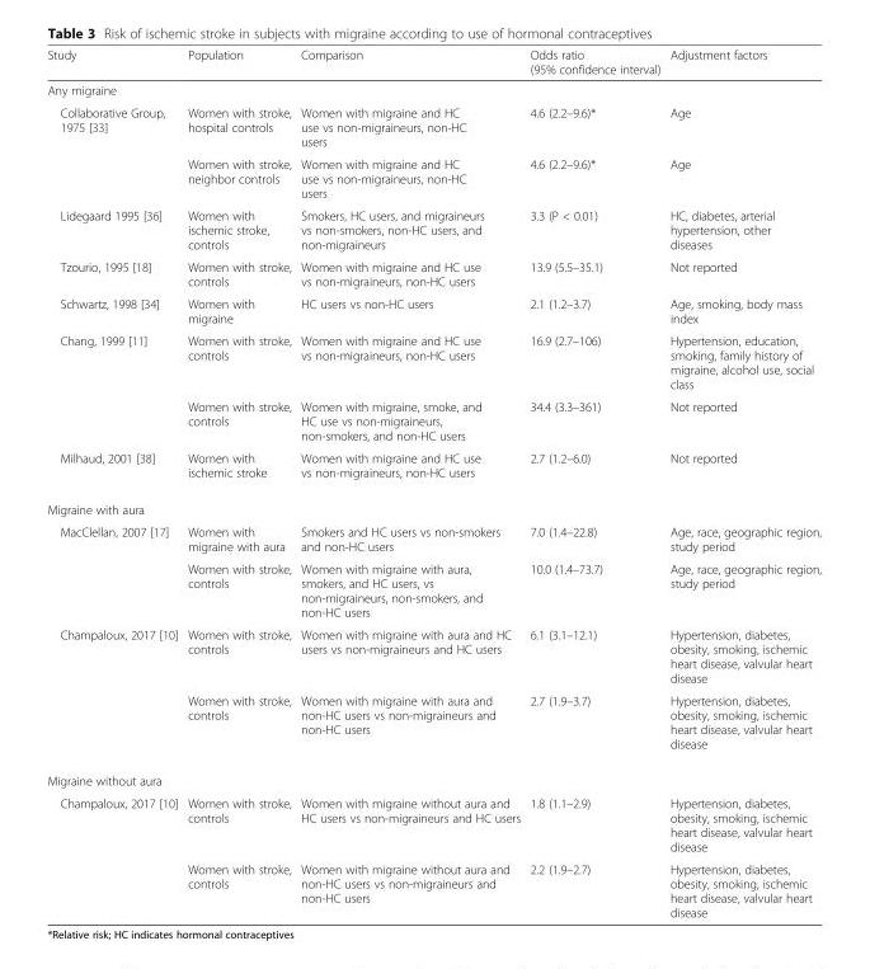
<table><thead><tr><td>Study</td><td>Population</td><td>Comparison</td><td>Odds ratio (95% confidence interval)</td><td>Adjustment factors</td></tr></thead><tbody><tr><td colspan="5">Any migraine</td></tr><tr><td rowspan="2">Collaborative Group, 1975 [33]</td><td>Women with stroke, hospital controls</td><td>Women with migraine and HC use vs non-migraineurs, non-HC users</td><td>4.6 (2.2–9.6)*</td><td>Age</td></tr><tr><td>Women with stroke, neighbor controls</td><td>Women with migraine and HC use vs non-migraineurs, non-HC users</td><td>4.6 (2.2–9.6)*</td><td>Age</td></tr><tr><td>Lidegaard 1995 [36]</td><td>Women with ischemic stroke, controls</td><td>Smokers, HC users, and migraineurs vs non-smokers, non-HC users, and non-migraineurs</td><td>3.3 (P &lt; 0.01)</td><td>HC, diabetes, arterial hypertension, other diseases</td></tr><tr><td>Tzourio, 1995 [18]</td><td>Women with stroke, controls</td><td>Women with migraine and HC use vs non-migraineurs, non-HC users</td><td>13.9 (5.5–35.1)</td><td>Not reported</td></tr><tr><td>Schwartz, 1998 [34]</td><td>Women with migraine</td><td>HC users vs non-HC users</td><td>2.1 (1.2–3.7)</td><td>Age, smoking, body mass index</td></tr><tr><td rowspan="2">Chang, 1999 [11]</td><td>Women with stroke, controls</td><td>Women with migraine and HC use vs non-migraineurs, non-HC users</td><td>16.9 (2.7–106)</td><td>Hypertension, education, smoking, family history of migraine, alcohol use, social class</td></tr><tr><td>Women with stroke, controls</td><td>Women with migraine, smoke, and HC use vs non-migraineurs, non-smokers, and non-HC users</td><td>34.4 (3.3–361)</td><td>Not reported</td></tr><tr><td>Milhaud, 2001 [38]</td><td>Women with ischemic stroke</td><td>Women with migraine and HC use vs non-migraineurs, non-HC users</td><td>2.7 (1.2–6.0)</td><td>Not reported</td></tr><tr><td colspan="5">Migraine with aura</td></tr><tr><td rowspan="2">MacClellan, 2007 [17]</td><td>Women with migraine with aura</td><td>Smokers and HC users vs non-smokers and non-HC users</td><td>7.0 (1.4–22.8)</td><td>Age, race, geographic region, study period</td></tr><tr><td>Women with stroke, controls</td><td>Women with migraine with aura, smokers, and HC users, vs non-migraineurs, non-smokers, and non-HC users</td><td>10.0 (1.4–73.7)</td><td>Age, race, geographic region, study period</td></tr><tr><td rowspan="2">Champaloux, 2017 [10]</td><td>Women with stroke, controls</td><td>Women with migraine with aura and HC users vs non-migraineurs and HC users</td><td>6.1 (3.1–12.1)</td><td>Hypertension, diabetes, obesity, smoking, ischemic heart disease, valvular heart disease</td></tr><tr><td>Women with stroke, controls</td><td>Women with migraine with aura and non-HC users vs non-migraineurs and non-HC users</td><td>2.7 (1.9–3.7)</td><td>Hypertension, diabetes, obesity, smoking, ischemic heart disease, valvular heart disease</td></tr><tr><td colspan="5">Migraine without aura</td></tr><tr><td rowspan="2">Champaloux, 2017 [10]</td><td>Women with stroke, controls</td><td>Women with migraine without aura and HC users vs non-migraineurs and HC users</td><td>1.8 (1.1–2.9)</td><td>Hypertension, diabetes, obesity, smoking, ischemic heart disease, valvular heart disease</td></tr><tr><td>Women with stroke, controls</td><td>Women with migraine without aura and non-HC users vs non-migraineurs and non-HC users</td><td>2.2 (1.9–2.7)</td><td>Hypertension, diabetes, obesity, smoking, ischemic heart disease, valvular heart disease</td></tr></tbody></table>